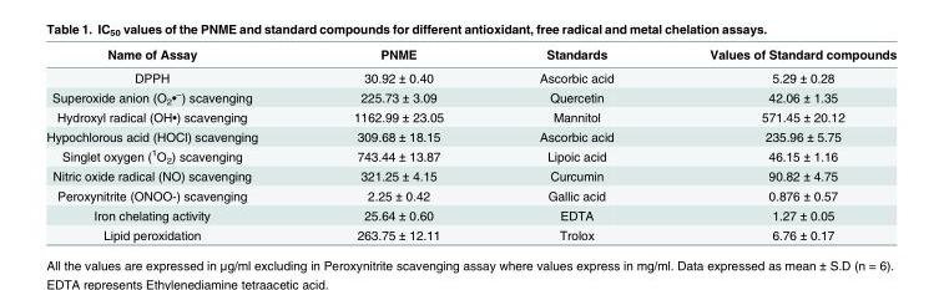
<table><thead><tr><td>Name of Assay</td><td>PNME</td><td>Standards</td><td>Values of Standard compounds</td></tr></thead><tbody><tr><td>DPPH</td><td>30.92 ± 0.40</td><td>Ascorbic acid</td><td>5.29 ± 0.28</td></tr><tr><td>Superoxide anion (O<sub>2</sub>•<sup>−</sup>) scavenging</td><td>225.73 ± 3.09</td><td>Quercetin</td><td>42.06 ± 1.35</td></tr><tr><td>Hydroxyl radical (OH•) scavenging</td><td>1162.99 ± 23.05</td><td>Mannitol</td><td>571.45 ± 20.12</td></tr><tr><td>Hypochlorous acid (HOCl) scavenging</td><td>309.68 ± 18.15</td><td>Ascorbic acid</td><td>235.96 ± 5.75</td></tr><tr><td>Singlet oxygen (<sup>1</sup>O<sub>2</sub>) scavenging</td><td>743.44 ± 13.87</td><td>Lipoic acid</td><td>46.15 ± 1.16</td></tr><tr><td>Nitric oxide radical (NO) scavenging</td><td>321.25 ± 4.15</td><td>Curcumin</td><td>90.82 ± 4.75</td></tr><tr><td>Peroxynitrite (ONOO-) scavenging</td><td>2.25 ± 0.42</td><td>Gallic acid</td><td>0.876 ± 0.57</td></tr><tr><td>Iron chelating activity</td><td>25.64 ± 0.60</td><td>EDTA</td><td>1.27 ± 0.05</td></tr><tr><td>Lipid peroxidation</td><td>263.75 ± 12.11</td><td>Trolox</td><td>6.76 ± 0.17</td></tr></tbody></table>